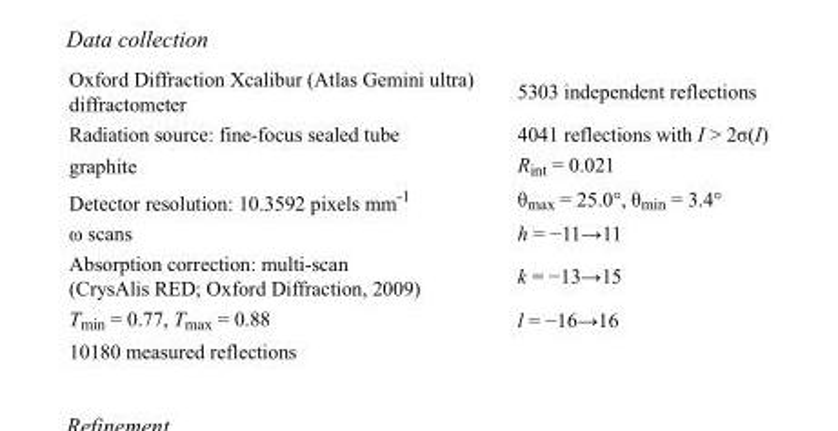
<table><tbody><tr><td>Oxford Diffraction Xcalibur (Atlas Gemini ultra) diffractometer</td><td>5303 independent reflections</td></tr><tr><td>Radiation source: fine-focus sealed tube</td><td>4041 reflections with I &gt; 2σ(I)</td></tr><tr><td>graphite</td><td>R<sub>int</sub> = 0.021</td></tr><tr><td>Detector resolution: 10.3592 pixels mm<sup>-1</sup></td><td>θ<sub>max</sub> = 25.0°, θ<sub>min</sub> = 3.4°</td></tr><tr><td>ω scans</td><td>h = −11→11</td></tr><tr><td>Absorption correction: multi-scan (CrysAlis RED; Oxford Diffraction, 2009)</td><td>k = −13→15</td></tr><tr><td>T<sub>min</sub> = 0.77, T<sub>max</sub> = 0.88</td><td>l = −16→16</td></tr><tr><td>10180 measured reflections</td><td></td></tr></tbody></table>